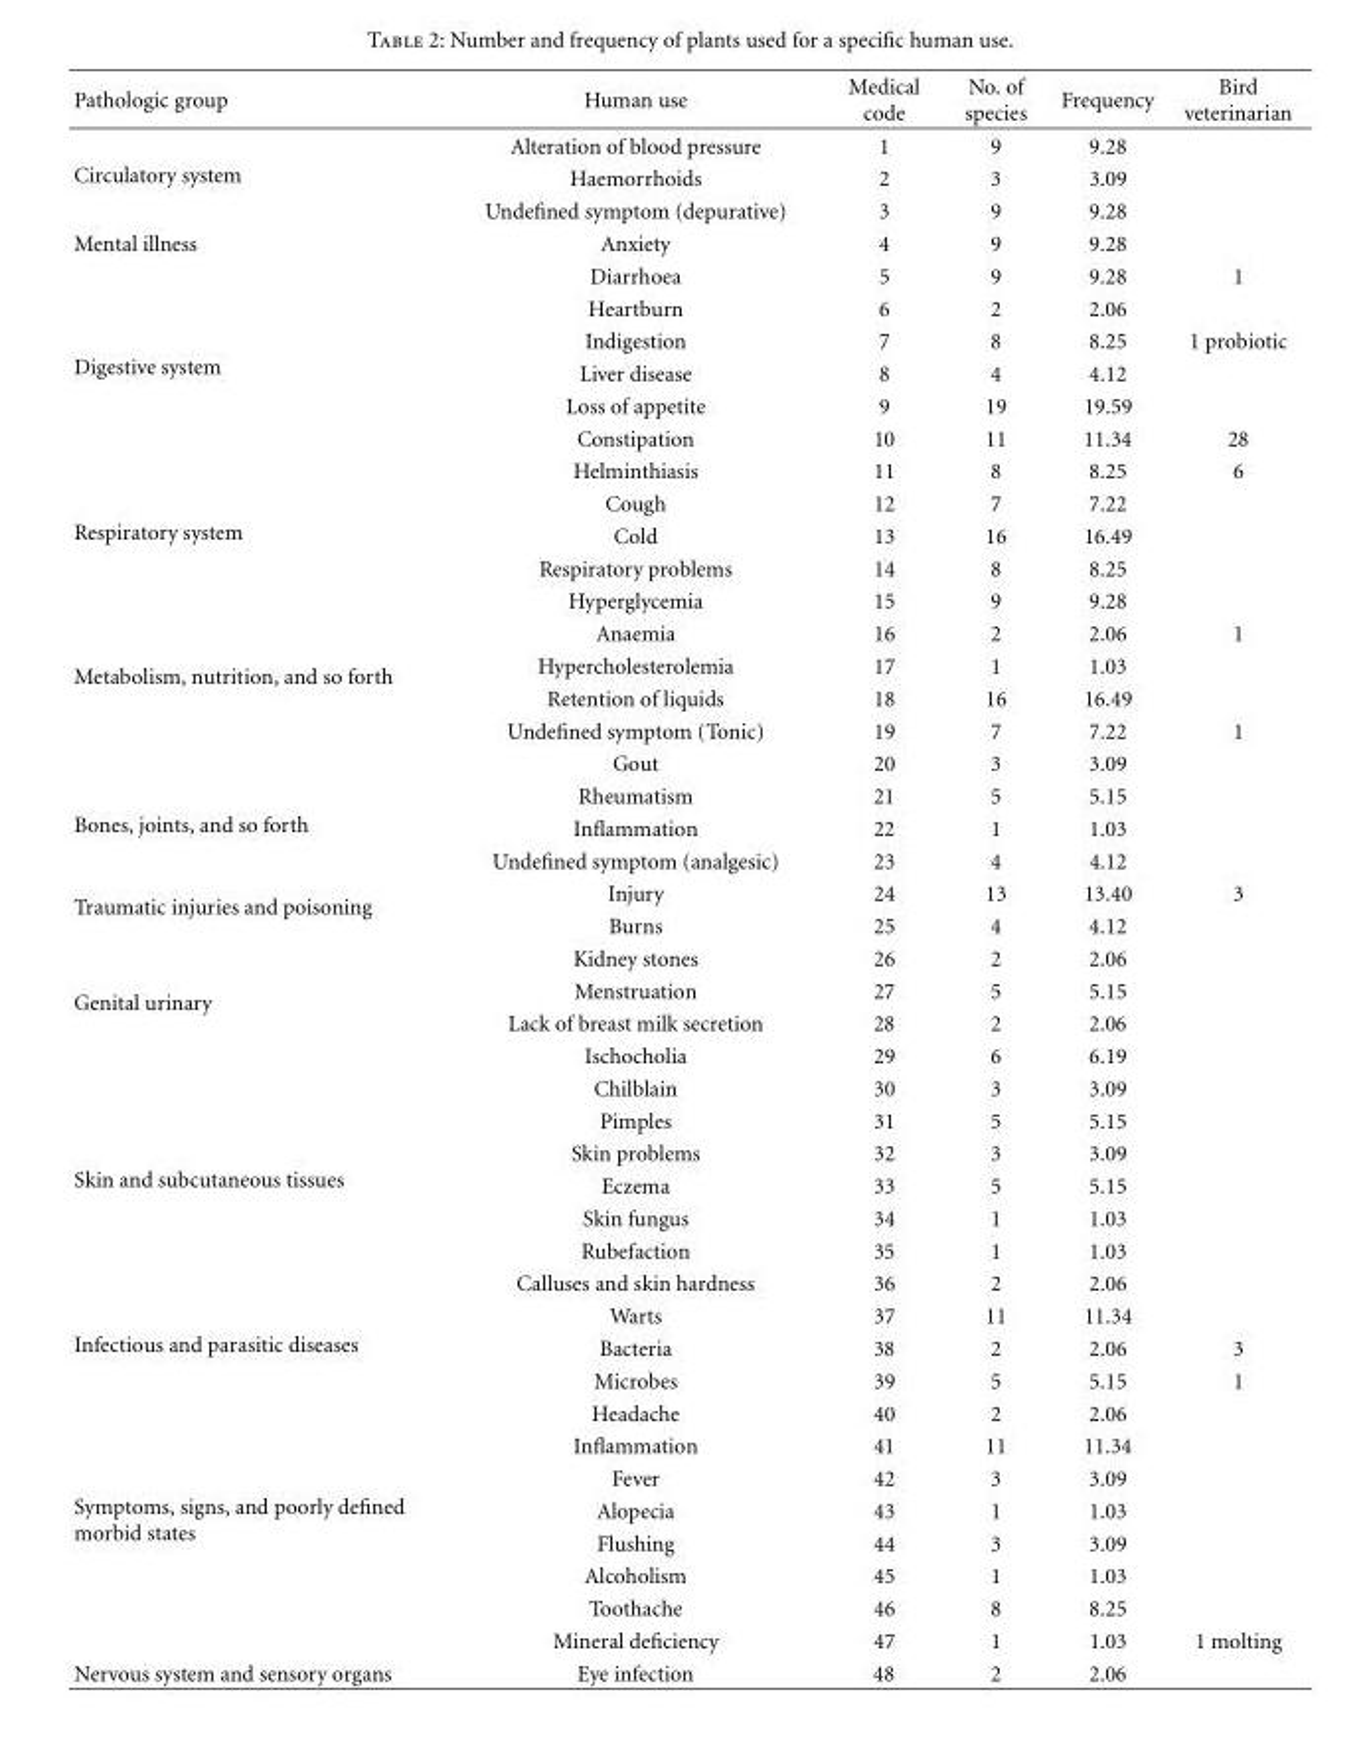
<table><thead><tr><td>Pathologic group</td><td>Human use</td><td>Medical code</td><td>No. of species</td><td>Frequency</td><td>Bird veterinarian</td></tr></thead><tbody><tr><td rowspan="3">Circulatory system</td><td>Alteration of blood pressure</td><td>1</td><td>9</td><td>9.28</td><td></td></tr><tr><td>Haemorrhoids</td><td>2</td><td>3</td><td>3.09</td><td></td></tr><tr><td>Undefined symptom (depurative)</td><td>3</td><td>9</td><td>9.28</td><td></td></tr><tr><td>Mental illness</td><td>Anxiety</td><td>4</td><td>9</td><td>9.28</td><td></td></tr><tr><td rowspan="7">Digestive system</td><td>Diarrhoea</td><td>5</td><td>9</td><td>9.28</td><td>1</td></tr><tr><td>Heartburn</td><td>6</td><td>2</td><td>2.06</td><td></td></tr><tr><td>Indigestion</td><td>7</td><td>8</td><td>8.25</td><td>1 probiotic</td></tr><tr><td>Liver disease</td><td>8</td><td>4</td><td>4.12</td><td></td></tr><tr><td>Loss of appetite</td><td>9</td><td>19</td><td>19.59</td><td></td></tr><tr><td>Constipation</td><td>10</td><td>11</td><td>11.34</td><td>28</td></tr><tr><td>Helminthiasis</td><td>11</td><td>8</td><td>8.25</td><td>6</td></tr><tr><td rowspan="3">Respiratory system</td><td>Cough</td><td>12</td><td>7</td><td>7.22</td><td></td></tr><tr><td>Cold</td><td>13</td><td>16</td><td>16.49</td><td></td></tr><tr><td>Respiratory problems</td><td>14</td><td>8</td><td>8.25</td><td></td></tr><tr><td rowspan="6">Metabolism, nutrition, and so forth</td><td>Hyperglycemia</td><td>15</td><td>9</td><td>9.28</td><td></td></tr><tr><td>Anaemia</td><td>16</td><td>2</td><td>2.06</td><td>1</td></tr><tr><td>Hypercholesterolemia</td><td>17</td><td>1</td><td>1.03</td><td></td></tr><tr><td>Retention of liquids</td><td>18</td><td>16</td><td>16.49</td><td></td></tr><tr><td>Undefined symptom (Tonic)</td><td>19</td><td>7</td><td>7.22</td><td>1</td></tr><tr><td>Gout</td><td>20</td><td>3</td><td>3.09</td><td></td></tr><tr><td rowspan="3">Bones, joints, and so forth</td><td>Rheumatism</td><td>21</td><td>5</td><td>5.15</td><td></td></tr><tr><td>Inflammation</td><td>22</td><td>1</td><td>1.03</td><td></td></tr><tr><td>Undefined symptom (analgesic)</td><td>23</td><td>4</td><td>4.12</td><td></td></tr><tr><td rowspan="2">Traumatic injuries and poisoning</td><td>Injury</td><td>24</td><td>13</td><td>13.40</td><td>3</td></tr><tr><td>Burns</td><td>25</td><td>4</td><td>4.12</td><td></td></tr><tr><td rowspan="4">Genital urinary</td><td>Kidney stones</td><td>26</td><td>2</td><td>2.06</td><td></td></tr><tr><td>Menstruation</td><td>27</td><td>5</td><td>5.15</td><td></td></tr><tr><td>Lack of breast milk secretion</td><td>28</td><td>2</td><td>2.06</td><td></td></tr><tr><td>Ischocholia</td><td>29</td><td>6</td><td>6.19</td><td></td></tr><tr><td rowspan="7">Skin and subcutaneous tissues</td><td>Chilblain</td><td>30</td><td>3</td><td>3.09</td><td></td></tr><tr><td>Pimples</td><td>31</td><td>5</td><td>5.15</td><td></td></tr><tr><td>Skin problems</td><td>32</td><td>3</td><td>3.09</td><td></td></tr><tr><td>Eczema</td><td>33</td><td>5</td><td>5.15</td><td></td></tr><tr><td>Skin fungus</td><td>34</td><td>1</td><td>1.03</td><td></td></tr><tr><td>Rubefaction</td><td>35</td><td>1</td><td>1.03</td><td></td></tr><tr><td>Calluses and skin hardness</td><td>36</td><td>2</td><td>2.06</td><td></td></tr><tr><td rowspan="3">Infectious and parasitic diseases</td><td>Warts</td><td>37</td><td>11</td><td>11.34</td><td></td></tr><tr><td>Bacteria</td><td>38</td><td>2</td><td>2.06</td><td>3</td></tr><tr><td>Microbes</td><td>39</td><td>5</td><td>5.15</td><td>1</td></tr><tr><td rowspan="8">Symptoms, signs, and poorly defined morbid states</td><td>Headache</td><td>40</td><td>2</td><td>2.06</td><td></td></tr><tr><td>Inflammation</td><td>41</td><td>11</td><td>11.34</td><td></td></tr><tr><td>Fever</td><td>42</td><td>3</td><td>3.09</td><td></td></tr><tr><td>Alopecia</td><td>43</td><td>1</td><td>1.03</td><td></td></tr><tr><td>Flushing</td><td>44</td><td>3</td><td>3.09</td><td></td></tr><tr><td>Alcoholism</td><td>45</td><td>1</td><td>1.03</td><td></td></tr><tr><td>Toothache</td><td>46</td><td>8</td><td>8.25</td><td></td></tr><tr><td>Mineral deficiency</td><td>47</td><td>1</td><td>1.03</td><td>1 molting</td></tr><tr><td>Nervous system and sensory organs</td><td>Eye infection</td><td>48</td><td>2</td><td>2.06</td><td></td></tr></tbody></table>